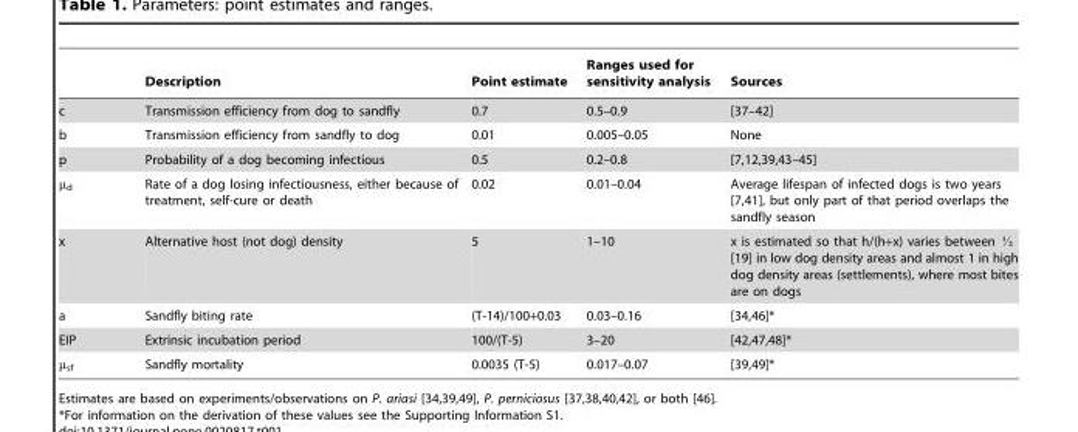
<table><thead><tr><td></td><td>Description</td><td>Point estimate</td><td>Ranges used for sensitivity analysis</td><td>Sources</td></tr></thead><tbody><tr><td>c</td><td>Transmission efficiency from dog to sandfly</td><td>0.7</td><td>0.5–0.9</td><td>[37–42]</td></tr><tr><td>b</td><td>Transmission efficiency from sandfly to dog</td><td>0.01</td><td>0.005–0.05</td><td>None</td></tr><tr><td>p</td><td>Probability of a dog becoming infectious</td><td>0.5</td><td>0.2–0.8</td><td>[7,12,39,43–45]</td></tr><tr><td>μ<sub>d</sub></td><td>Rate of a dog losing infectiousness, either because of treatment, self-cure or death</td><td>0.02</td><td>0.01–0.04</td><td>Average lifespan of infected dogs is two years [7,41], but only part of that period overlaps the sandfly season</td></tr><tr><td>x</td><td>Alternative host (not dog) density</td><td>5</td><td>1–10</td><td>x is estimated so that h/(h+x) varies between K [19] in low dog density areas and almost 1 in high dog density areas (settlements), where most bites are on dogs</td></tr><tr><td>a</td><td>Sandfly biting rate</td><td>(T-14)/100+0.03</td><td>0.03–0.16</td><td>[34,46]*</td></tr><tr><td>EIP</td><td>Extrinsic incubation period</td><td>100/(T-5)</td><td>3–20</td><td>[42,47,48]*</td></tr><tr><td>μ<sub>sf</sub></td><td>Sandfly mortality</td><td>0.0035 (T-5)</td><td>0.017–0.07</td><td>[39,49]*</td></tr></tbody></table>